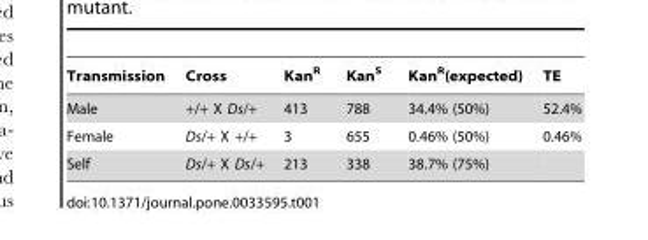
<table><thead><tr><td>Transmission</td><td>Cross</td><td>Kan<sup>R</sup></td><td>Kan<sup>S</sup></td><td>Kan<sup>R</sup>(expected)</td><td>TE</td></tr></thead><tbody><tr><td>Male</td><td>+/+ X Ds/+</td><td>413</td><td>788</td><td>34.4% (50%)</td><td>52.4%</td></tr><tr><td>Female</td><td>Ds/+ X +/+</td><td>3</td><td>655</td><td>0.46% (50%)</td><td>0.46%</td></tr><tr><td>Self</td><td>Ds/+ X Ds/+</td><td>213</td><td>338</td><td>38.7% (75%)</td><td></td></tr></tbody></table>